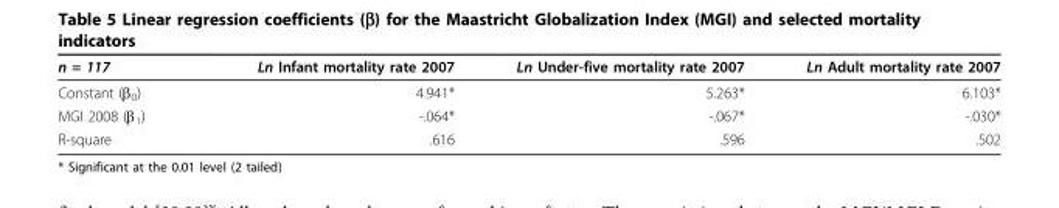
<table><thead><tr><td>n = 117</td><td>Ln Infant mortality rate 2007</td><td>Ln Under-five mortality rate 2007</td><td>Ln Adult mortality rate 2007</td></tr></thead><tbody><tr><td>Constant (β<sub>0</sub>)</td><td>4.941*</td><td>5.263*</td><td>6.103*</td></tr><tr><td>MGI 2008 (β<sub>1</sub>)</td><td>-.064*</td><td>-.067*</td><td>-.030*</td></tr><tr><td>R-square</td><td>.616</td><td>.596</td><td>.502</td></tr></tbody></table>